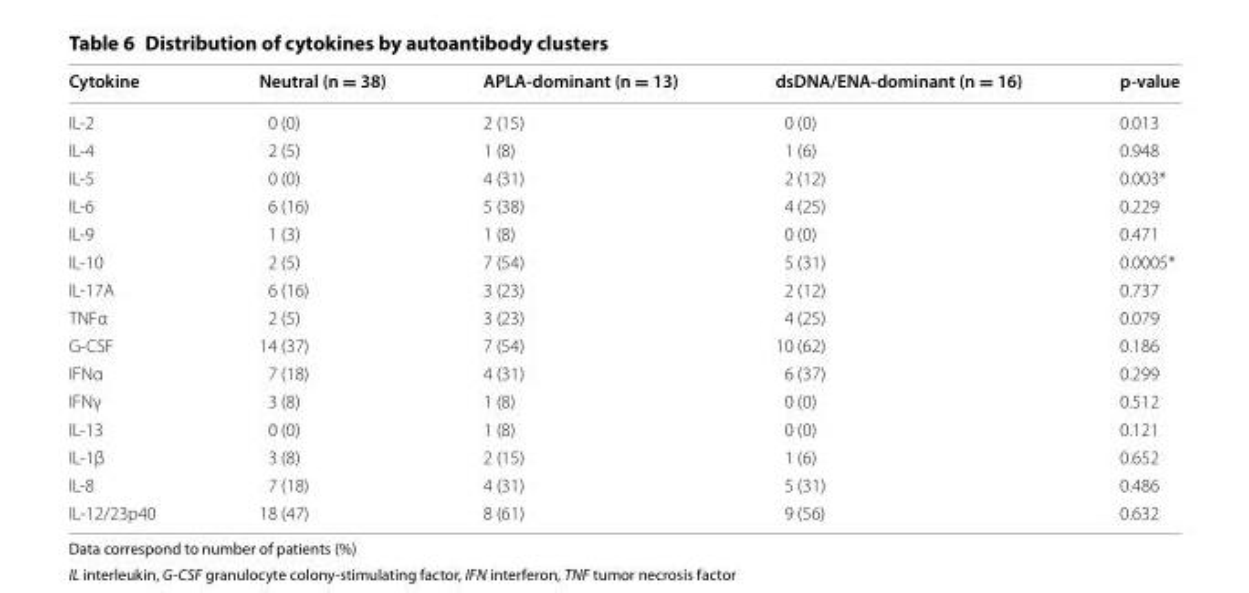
<table><thead><tr><td>Cytokine</td><td>Neutral (n = 38)</td><td>APLA-dominant (n = 13)</td><td>dsDNA/ENA-dominant (n = 16)</td><td>p-value</td></tr></thead><tbody><tr><td>IL‑2</td><td>0 (0)</td><td>2 (15)</td><td>0 (0)</td><td>0.013</td></tr><tr><td>IL‑4</td><td>2 (5)</td><td>1 (8)</td><td>1 (6)</td><td>0.948</td></tr><tr><td>IL‑5</td><td>0 (0)</td><td>4 (31)</td><td>2 (12)</td><td>0.003*</td></tr><tr><td>IL‑6</td><td>6 (16)</td><td>5 (38)</td><td>4 (25)</td><td>0.229</td></tr><tr><td>IL‑9</td><td>1 (3)</td><td>1 (8)</td><td>0 (0)</td><td>0.471</td></tr><tr><td>IL‑10</td><td>2 (5)</td><td>7 (54)</td><td>5 (31)</td><td>0.0005*</td></tr><tr><td>IL‑17A</td><td>6 (16)</td><td>3 (23)</td><td>2 (12)</td><td>0.737</td></tr><tr><td>TNFα</td><td>2 (5)</td><td>3 (23)</td><td>4 (25)</td><td>0.079</td></tr><tr><td>G‑CSF</td><td>14 (37)</td><td>7 (54)</td><td>10 (62)</td><td>0.186</td></tr><tr><td>IFNα</td><td>7 (18)</td><td>4 (31)</td><td>6 (37)</td><td>0.299</td></tr><tr><td>IFNγ</td><td>3 (8)</td><td>1 (8)</td><td>0 (0)</td><td>0.512</td></tr><tr><td>IL‑13</td><td>0 (0)</td><td>1 (8)</td><td>0 (0)</td><td>0.121</td></tr><tr><td>IL‑1β</td><td>3 (8)</td><td>2 (15)</td><td>1 (6)</td><td>0.652</td></tr><tr><td>IL‑8</td><td>7 (18)</td><td>4 (31)</td><td>5 (31)</td><td>0.486</td></tr><tr><td>IL‑12/23p40</td><td>18 (47)</td><td>8 (61)</td><td>9 (56)</td><td>0.632</td></tr></tbody></table>